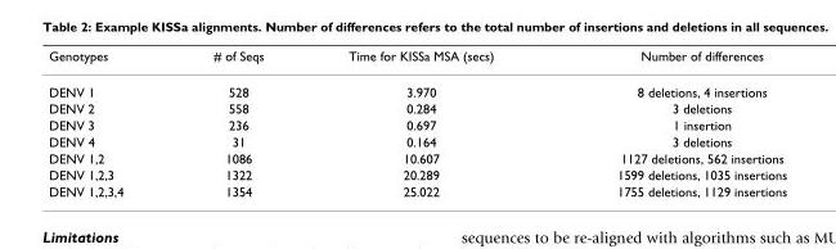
<table><thead><tr><td>Genotypes</td><td># of Seqs</td><td>Time for KISSa MSA (secs)</td><td>Number of differences</td></tr></thead><tbody><tr><td>DENV 1</td><td>528</td><td>3.970</td><td>8 deletions, 4 insertions</td></tr><tr><td>DENV 2</td><td>558</td><td>0.284</td><td>3 deletions</td></tr><tr><td>DENV 3</td><td>236</td><td>0.697</td><td>1 insertion</td></tr><tr><td>DENV 4</td><td>31</td><td>0.164</td><td>3 deletions</td></tr><tr><td>DENV 1,2</td><td>1086</td><td>10.607</td><td>1127 deletions, 562 insertions</td></tr><tr><td>DENV 1,2,3</td><td>1322</td><td>20.289</td><td>1599 deletions, 1035 insertions</td></tr><tr><td>DENV 1,2,3,4</td><td>1354</td><td>25.022</td><td>1755 deletions, 1129 insertions</td></tr></tbody></table>